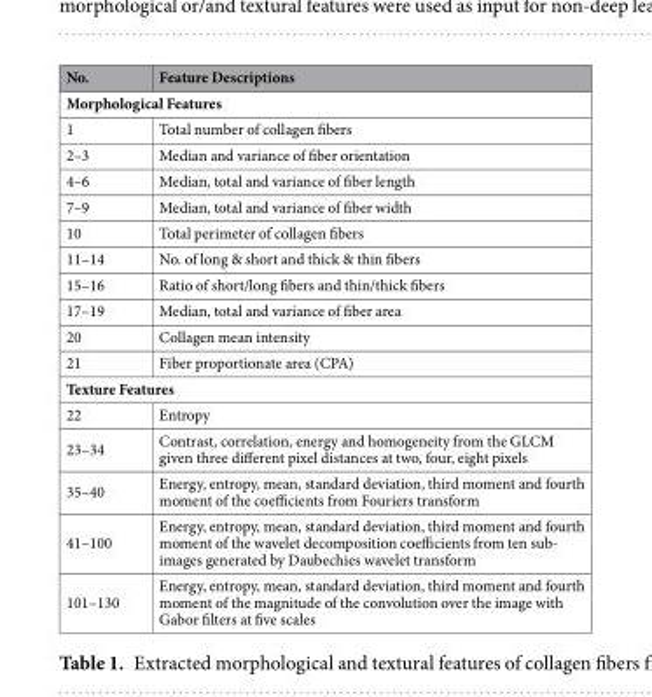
<table><thead><tr><td>No.</td><td>Feature Descriptions</td></tr></thead><tbody><tr><td colspan="2">Morphological Features</td></tr><tr><td>1</td><td>Total number of collagen fibers</td></tr><tr><td>2–3</td><td>Median and variance of fiber orientation</td></tr><tr><td>4–6</td><td>Median, total and variance of fiber length</td></tr><tr><td>7–9</td><td>Median, total and variance of fiber width</td></tr><tr><td>10</td><td>Total perimeter of collagen fibers</td></tr><tr><td>11–14</td><td>No. of long &amp; short and thick &amp; thin fibers</td></tr><tr><td>15–16</td><td>Ratio of short/long fibers and thin/thick fibers</td></tr><tr><td>17–19</td><td>Median, total and variance of fiber area</td></tr><tr><td>20</td><td>Collagen mean intensity</td></tr><tr><td>21</td><td>Fiber proportionate area (CPA)</td></tr><tr><td colspan="2">Texture Features</td></tr><tr><td>22</td><td>Entropy</td></tr><tr><td>23–34</td><td>Contrast, correlation, energy and homogeneity from the GLCM given three different pixel distances at two, four, eight pixels</td></tr><tr><td>35–40</td><td>Energy, entropy, mean, standard deviation, third moment and fourth moment of the coefficients from Fouriers transform</td></tr><tr><td>41–100</td><td>Energy, entropy, mean, standard deviation, third moment and fourth moment of the wavelet decomposition coefficients from ten sub- images generated by Daubechies wavelet transform</td></tr><tr><td>101–130</td><td>Energy, entropy, mean, standard deviation, third moment and fourth moment of the magnitude of the convolution over the image with Gabor filters at five scales</td></tr></tbody></table>